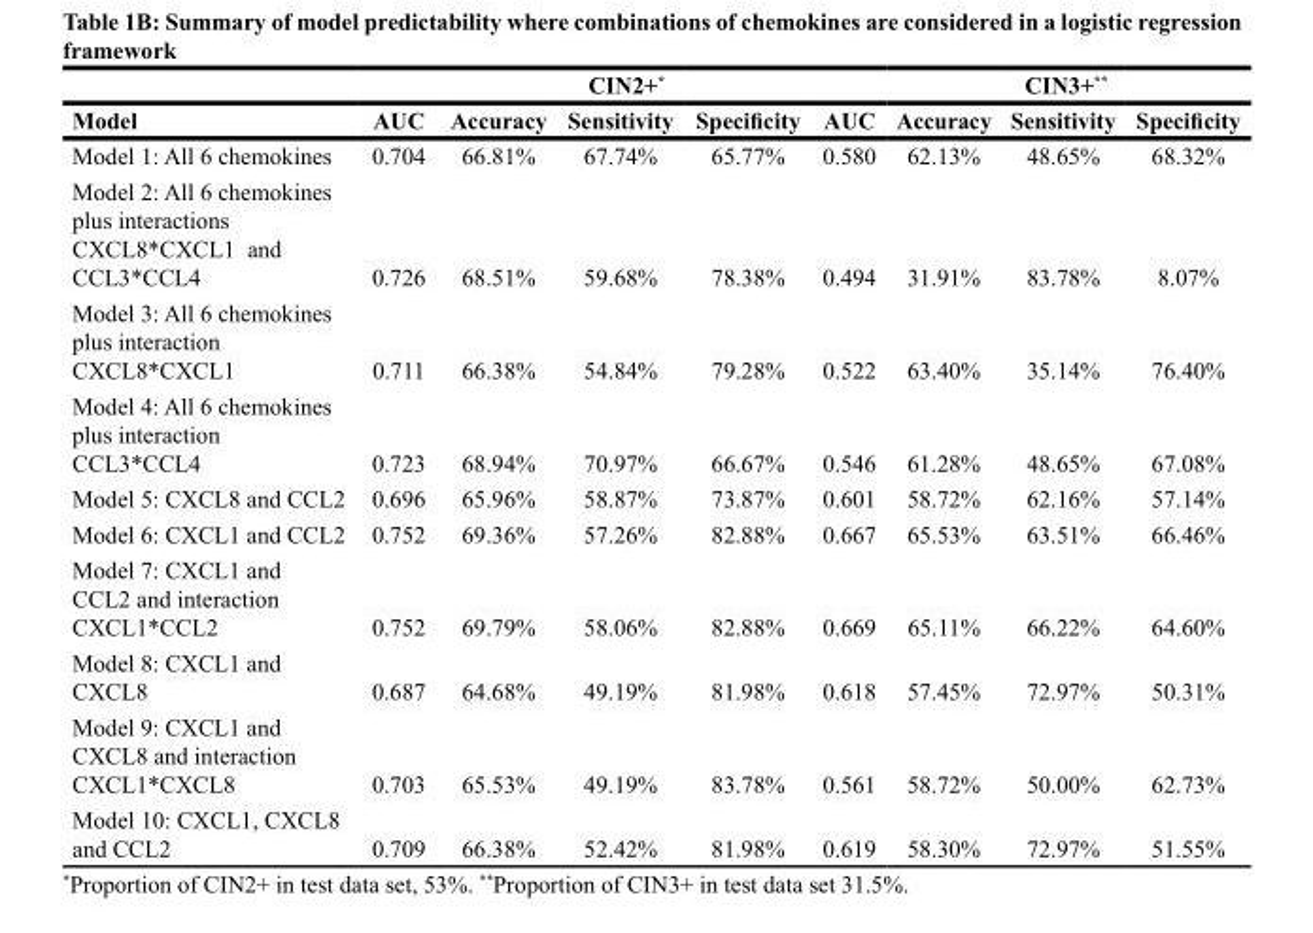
<table><thead><tr><td rowspan="2">Model</td><td colspan="4">CIN2+*</td><td colspan="4">CIN3+**</td></tr><tr><td>AUC</td><td>Accuracy</td><td>Sensitivity</td><td>Specificity</td><td>AUC</td><td>Accuracy</td><td>Sensitivity</td><td>Specificity</td></tr></thead><tbody><tr><td>Model 1: All 6 chemokines</td><td>0.704</td><td>66.81%</td><td>67.74%</td><td>65.77%</td><td>0.580</td><td>62.13%</td><td>48.65%</td><td>68.32%</td></tr><tr><td>Model 2: All 6 chemokines plus interactions CXCL8*CXCL1 and CCL3*CCL4</td><td>0.726</td><td>68.51%</td><td>59.68%</td><td>78.38%</td><td>0.494</td><td>31.91%</td><td>83.78%</td><td>8.07%</td></tr><tr><td>Model 3: All 6 chemokines plus interaction CXCL8*CXCL1</td><td>0.711</td><td>66.38%</td><td>54.84%</td><td>79.28%</td><td>0.522</td><td>63.40%</td><td>35.14%</td><td>76.40%</td></tr><tr><td>Model 4: All 6 chemokines plus interaction CCL3*CCL4</td><td>0.723</td><td>68.94%</td><td>70.97%</td><td>66.67%</td><td>0.546</td><td>61.28%</td><td>48.65%</td><td>67.08%</td></tr><tr><td>Model 5: CXCL8 and CCL2</td><td>0.696</td><td>65.96%</td><td>58.87%</td><td>73.87%</td><td>0.601</td><td>58.72%</td><td>62.16%</td><td>57.14%</td></tr><tr><td>Model 6: CXCL1 and CCL2</td><td>0.752</td><td>69.36%</td><td>57.26%</td><td>82.88%</td><td>0.667</td><td>65.53%</td><td>63.51%</td><td>66.46%</td></tr><tr><td>Model 7: CXCL1 and CCL2 and interaction CXCL1*CCL2</td><td>0.752</td><td>69.79%</td><td>58.06%</td><td>82.88%</td><td>0.669</td><td>65.11%</td><td>66.22%</td><td>64.60%</td></tr><tr><td>Model 8: CXCL1 and CXCL8</td><td>0.687</td><td>64.68%</td><td>49.19%</td><td>81.98%</td><td>0.618</td><td>57.45%</td><td>72.97%</td><td>50.31%</td></tr><tr><td>Model 9: CXCL1 and CXCL8 and interaction CXCL1*CXCL8</td><td>0.703</td><td>65.53%</td><td>49.19%</td><td>83.78%</td><td>0.561</td><td>58.72%</td><td>50.00%</td><td>62.73%</td></tr><tr><td>Model 10: CXCL1, CXCL8 and CCL2</td><td>0.709</td><td>66.38%</td><td>52.42%</td><td>81.98%</td><td>0.619</td><td>58.30%</td><td>72.97%</td><td>51.55%</td></tr></tbody></table>